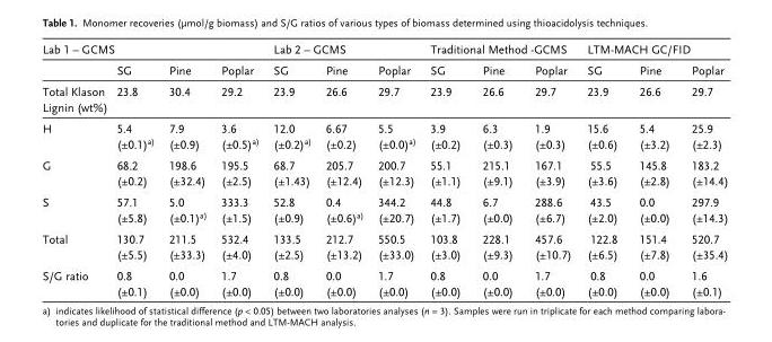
<table><thead><tr><td colspan="4">Lab 1 – GCMS</td><td colspan="3">Lab 2 – GCMS</td><td colspan="3">Traditional Method -GCMS</td><td colspan="3">LTM-MACH GC/FID</td></tr><tr><td></td><td>SG</td><td>Pine</td><td>Poplar</td><td>SG</td><td>Pine</td><td>Poplar</td><td>SG</td><td>Pine</td><td>Poplar</td><td>SG</td><td>Pine</td><td>Poplar</td></tr></thead><tbody><tr><td>Total Klason Lignin (wt%)</td><td>23.8</td><td>30.4</td><td>29.2</td><td>23.9</td><td>26.6</td><td>29.7</td><td>23.9</td><td>26.6</td><td>29.7</td><td>23.9</td><td>26.6</td><td>29.7</td></tr><tr><td>H</td><td>5.4 (±0.1)a)</td><td>7.9 (±0.9)</td><td>3.6 (±0.5)a)</td><td>12.0 (±0.2)a)</td><td>6.67 (±0.2)</td><td>5.5 (±0.0)a)</td><td>3.9 (±0.2)</td><td>6.3 (±0.3)</td><td>1.9 (±0.3)</td><td>15.6 (±0.6)</td><td>5.4 (±3.2)</td><td>25.9 (±2.3)</td></tr><tr><td>G</td><td>68.2 (±0.2)</td><td>198.6 (±32.4)</td><td>195.5 (±2.5)</td><td>68.7 (±1.43)</td><td>205.7 (±12.4)</td><td>200.7 (±12.3)</td><td>55.1 (±1.1)</td><td>215.1 (±9.1)</td><td>167.1 (±3.9)</td><td>55.5 (±3.6)</td><td>145.8 (±2.8)</td><td>183.2 (±14.4)</td></tr><tr><td>S</td><td>57.1 (±5.8)</td><td>5.0 (±0.1)a)</td><td>333.3 (±1.5)</td><td>52.8 (±0.9)</td><td>0.4 (±0.6)a)</td><td>344.2 (±20.7)</td><td>44.8 (±1.7)</td><td>6.7 (±0.0)</td><td>288.6 (±6.7)</td><td>43.5 (±2.0)</td><td>0.0 (±0.0)</td><td>297.9 (±14.3)</td></tr><tr><td>Total</td><td>130.7 (±5.5)</td><td>211.5 (±33.3)</td><td>532.4 (±4.0)</td><td>133.5 (±2.5)</td><td>212.7 (±13.2)</td><td>550.5 (±33.0)</td><td>103.8 (±3.0)</td><td>228.1 (±9.3)</td><td>457.6 (±10.7)</td><td>122.8 (±6.5)</td><td>151.4 (±7.8)</td><td>520.7 (±35.4)</td></tr><tr><td>S/G ratio</td><td>0.8 (±0.1)</td><td>0.0 (±0.0)</td><td>1.7 (±0.0)</td><td>0.8 (±0.0)</td><td>0.0 (±0.0)</td><td>1.7 (±0.0)</td><td>0.8 (±0.0)</td><td>0.0 (±0.0)</td><td>1.7 (±0.0)</td><td>0.8 (±0.0)</td><td>0.0 (±0.0)</td><td>1.6 (±0.1)</td></tr></tbody></table>